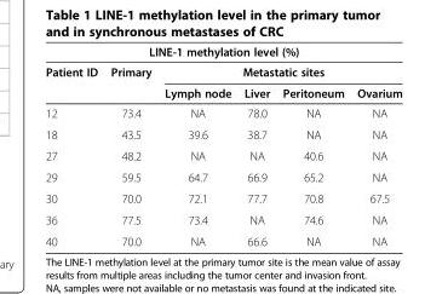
<table><thead><tr><td colspan="6">LINE-1 methylation level (%)</td></tr><tr><td rowspan="2">Patient ID</td><td rowspan="2">Primary</td><td colspan="4">Metastatic sites</td></tr><tr><td>Lymph node</td><td>Liver</td><td>Peritoneum</td><td>Ovarium</td></tr></thead><tbody><tr><td>12</td><td>73.4</td><td>NA</td><td>78.0</td><td>NA</td><td>NA</td></tr><tr><td>18</td><td>43.5</td><td>39.6</td><td>38.7</td><td>NA</td><td>NA</td></tr><tr><td>27</td><td>48.2</td><td>NA</td><td>NA</td><td>40.6</td><td>NA</td></tr><tr><td>29</td><td>59.5</td><td>64.7</td><td>66.9</td><td>65.2</td><td>NA</td></tr><tr><td>30</td><td>70.0</td><td>72.1</td><td>77.7</td><td>70.8</td><td>67.5</td></tr><tr><td>36</td><td>77.5</td><td>73.4</td><td>NA</td><td>74.6</td><td>NA</td></tr><tr><td>40</td><td>70.0</td><td>NA</td><td>66.6</td><td>NA</td><td>NA</td></tr></tbody></table>